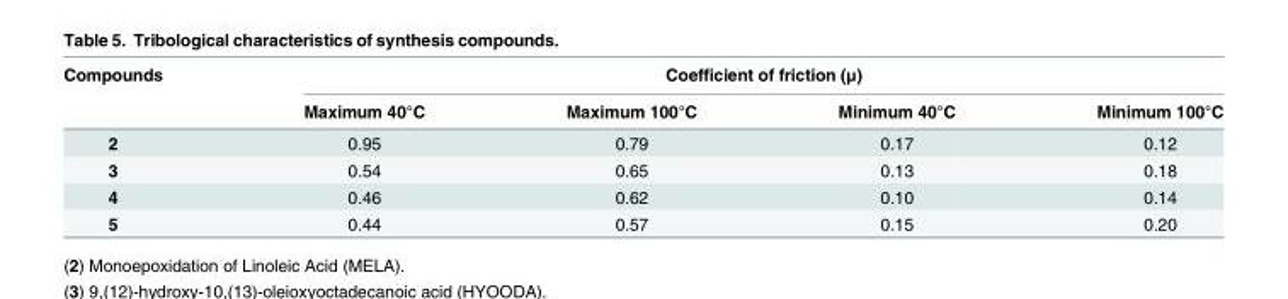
<table><thead><tr><td rowspan="2">Compounds</td><td colspan="4">Coefficient of friction (μ)</td></tr><tr><td>Maximum 40°C</td><td>Maximum 100°C</td><td>Minimum 40°C</td><td>Minimum 100°C</td></tr></thead><tbody><tr><td>2</td><td>0.95</td><td>0.79</td><td>0.17</td><td>0.12</td></tr><tr><td>3</td><td>0.54</td><td>0.65</td><td>0.13</td><td>0.18</td></tr><tr><td>4</td><td>0.46</td><td>0.62</td><td>0.10</td><td>0.14</td></tr><tr><td>5</td><td>0.44</td><td>0.57</td><td>0.15</td><td>0.20</td></tr></tbody></table>